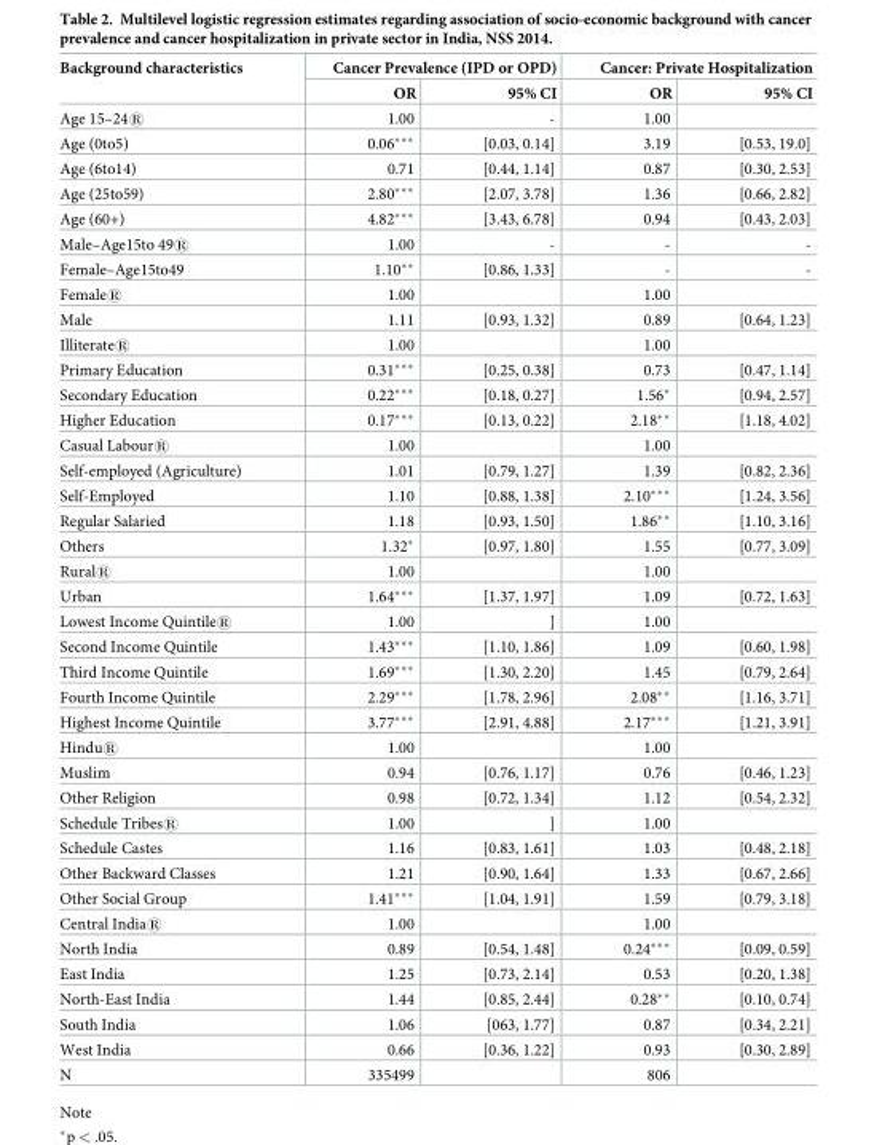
<table><thead><tr><td rowspan="2">Background characteristics</td><td colspan="2">Cancer Prevalence (IPD or OPD)</td><td colspan="2">Cancer: Private Hospitalization</td></tr><tr><td>OR</td><td>95% CI</td><td>OR</td><td>95% CI</td></tr></thead><tbody><tr><td>Age 15–24®</td><td>1.00</td><td>-</td><td>1.00</td><td></td></tr><tr><td>Age (0to5)</td><td>0.06***</td><td>[0.03, 0.14]</td><td>3.19</td><td>[0.53, 19.0]</td></tr><tr><td>Age (6to14)</td><td>0.71</td><td>[0.44, 1.14]</td><td>0.87</td><td>[0.30, 2.53]</td></tr><tr><td>Age (25to59)</td><td>2.80***</td><td>[2.07, 3.78]</td><td>1.36</td><td>[0.66, 2.82]</td></tr><tr><td>Age (60+)</td><td>4.82***</td><td>[3.43, 6.78]</td><td>0.94</td><td>[0.43, 2.03]</td></tr><tr><td>Male–Age15to 49®</td><td>1.00</td><td>-</td><td>-</td><td>-</td></tr><tr><td>Female–Age15to49</td><td>1.10**</td><td>[0.86, 1.33]</td><td>-</td><td>-</td></tr><tr><td>Female®</td><td>1.00</td><td></td><td>1.00</td><td></td></tr><tr><td>Male</td><td>1.11</td><td>[0.93, 1.32]</td><td>0.89</td><td>[0.64, 1.23]</td></tr><tr><td>Illiterate®</td><td>1.00</td><td></td><td>1.00</td><td></td></tr><tr><td>Primary Education</td><td>0.31***</td><td>[0.25, 0.38]</td><td>0.73</td><td>[0.47, 1.14]</td></tr><tr><td>Secondary Education</td><td>0.22***</td><td>[0.18, 0.27]</td><td>1.56*</td><td>[0.94, 2.57]</td></tr><tr><td>Higher Education</td><td>0.17***</td><td>[0.13, 0.22]</td><td>2.18**</td><td>[1.18, 4.02]</td></tr><tr><td>Casual Labour®</td><td>1.00</td><td></td><td>1.00</td><td></td></tr><tr><td>Self-employed (Agriculture)</td><td>1.01</td><td>[0.79, 1.27]</td><td>1.39</td><td>[0.82, 2.36]</td></tr><tr><td>Self-Employed</td><td>1.10</td><td>[0.88, 1.38]</td><td>2.10***</td><td>[1.24, 3.56]</td></tr><tr><td>Regular Salaried</td><td>1.18</td><td>[0.93, 1.50]</td><td>1.86**</td><td>[1.10, 3.16]</td></tr><tr><td>Others</td><td>1.32*</td><td>[0.97, 1.80]</td><td>1.55</td><td>[0.77, 3.09]</td></tr><tr><td>Rural®</td><td>1.00</td><td></td><td>1.00</td><td></td></tr><tr><td>Urban</td><td>1.64***</td><td>[1.37, 1.97]</td><td>1.09</td><td>[0.72, 1.63]</td></tr><tr><td>Lowest Income Quintile®</td><td>1.00</td><td>]</td><td>1.00</td><td></td></tr><tr><td>Second Income Quintile</td><td>1.43***</td><td>[1.10, 1.86]</td><td>1.09</td><td>[0.60, 1.98]</td></tr><tr><td>Third Income Quintile</td><td>1.69***</td><td>[1.30, 2.20]</td><td>1.45</td><td>[0.79, 2.64]</td></tr><tr><td>Fourth Income Quintile</td><td>2.29***</td><td>[1.78, 2.96]</td><td>2.08**</td><td>[1.16, 3.71]</td></tr><tr><td>Highest Income Quintile</td><td>3.77***</td><td>[2.91, 4.88]</td><td>2.17***</td><td>[1.21, 3.91]</td></tr><tr><td>Hindu®</td><td>1.00</td><td></td><td>1.00</td><td></td></tr><tr><td>Muslim</td><td>0.94</td><td>[0.76, 1.17]</td><td>0.76</td><td>[0.46, 1.23]</td></tr><tr><td>Other Religion</td><td>0.98</td><td>[0.72, 1.34]</td><td>1.12</td><td>[0.54, 2.32]</td></tr><tr><td>Schedule Tribes®</td><td>1.00</td><td>]</td><td>1.00</td><td></td></tr><tr><td>Schedule Castes</td><td>1.16</td><td>[0.83, 1.61]</td><td>1.03</td><td>[0.48, 2.18]</td></tr><tr><td>Other Backward Classes</td><td>1.21</td><td>[0.90, 1.64]</td><td>1.33</td><td>[0.67, 2.66]</td></tr><tr><td>Other Social Group</td><td>1.41***</td><td>[1.04, 1.91]</td><td>1.59</td><td>[0.79, 3.18]</td></tr><tr><td>Central India®</td><td>1.00</td><td></td><td>1.00</td><td></td></tr><tr><td>North India</td><td>0.89</td><td>[0.54, 1.48]</td><td>0.24***</td><td>[0.09, 0.59]</td></tr><tr><td>East India</td><td>1.25</td><td>[0.73, 2.14]</td><td>0.53</td><td>[0.20, 1.38]</td></tr><tr><td>North-East India</td><td>1.44</td><td>[0.85, 2.44]</td><td>0.28**</td><td>[0.10, 0.74]</td></tr><tr><td>South India</td><td>1.06</td><td>[063, 1.77]</td><td>0.87</td><td>[0.34, 2.21]</td></tr><tr><td>West India</td><td>0.66</td><td>[0.36, 1.22]</td><td>0.93</td><td>[0.30, 2.89]</td></tr><tr><td>N</td><td>335499</td><td></td><td>806</td><td></td></tr></tbody></table>